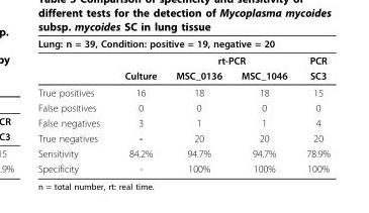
<table><thead><tr><td colspan="5">Lung: n = 39, Condition: positive = 19, negative = 20</td></tr><tr><td rowspan="2"></td><td rowspan="2">Culture</td><td colspan="2">rt-PCR</td><td rowspan="2">PCR SC3</td></tr><tr><td>MSC_0136</td><td>MSC_1046</td></tr></thead><tbody><tr><td>True positives</td><td>16</td><td>18</td><td>18</td><td>15</td></tr><tr><td>False positives</td><td>0</td><td>0</td><td>0</td><td>0</td></tr><tr><td>False negatives</td><td>3</td><td>1</td><td>1</td><td>4</td></tr><tr><td>True negatives</td><td>-</td><td>20</td><td>20</td><td>20</td></tr><tr><td>Sensitivity</td><td>84.2%</td><td>94.7%</td><td>94.7%</td><td>78.9%</td></tr><tr><td>Specificity</td><td>-</td><td>100%</td><td>100%</td><td>100%</td></tr></tbody></table>